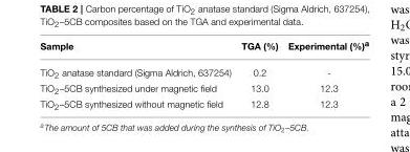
<table><thead><tr><td>Sample</td><td>TGA (%)</td><td>Experimental (%)<sup>a</sup></td></tr></thead><tbody><tr><td>TiO<sub>2</sub> anatase standard (Sigma Aldrich, 637254)</td><td>0.2</td><td>-</td></tr><tr><td>TiO<sub>2</sub>–5CB synthesized under magnetic field</td><td>13.0</td><td>12.3</td></tr><tr><td>TiO<sub>2</sub>–5CB synthesized without magnetic field</td><td>12.8</td><td>12.3</td></tr></tbody></table>